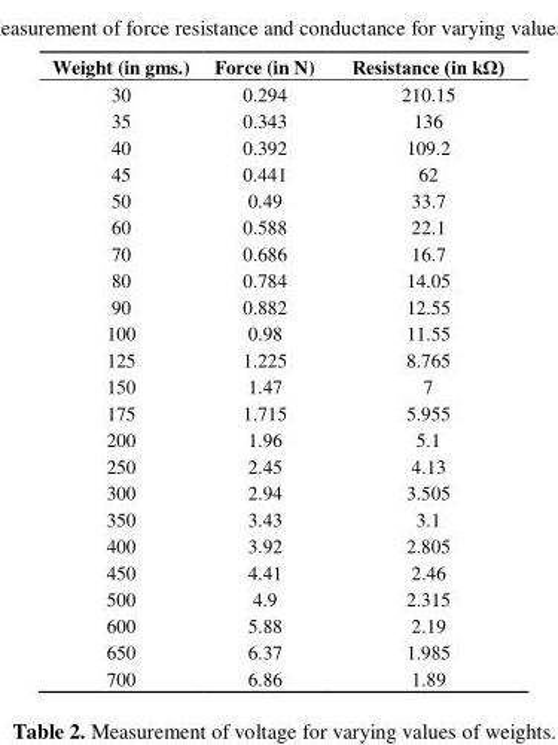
<table><thead><tr><td>Weight (in gms.)</td><td>Force (in N)</td><td>Resistance (in kΩ)</td></tr></thead><tbody><tr><td>30</td><td>0.294</td><td>210.15</td></tr><tr><td>35</td><td>0.343</td><td>136</td></tr><tr><td>40</td><td>0.392</td><td>109.2</td></tr><tr><td>45</td><td>0.441</td><td>62</td></tr><tr><td>50</td><td>0.49</td><td>33.7</td></tr><tr><td>60</td><td>0.588</td><td>22.1</td></tr><tr><td>70</td><td>0.686</td><td>16.7</td></tr><tr><td>80</td><td>0.784</td><td>14.05</td></tr><tr><td>90</td><td>0.882</td><td>12.55</td></tr><tr><td>100</td><td>0.98</td><td>11.55</td></tr><tr><td>125</td><td>1.225</td><td>8.765</td></tr><tr><td>150</td><td>1.47</td><td>7</td></tr><tr><td>175</td><td>1.715</td><td>5.955</td></tr><tr><td>200</td><td>1.96</td><td>5.1</td></tr><tr><td>250</td><td>2.45</td><td>4.13</td></tr><tr><td>300</td><td>2.94</td><td>3.505</td></tr><tr><td>350</td><td>3.43</td><td>3.1</td></tr><tr><td>400</td><td>3.92</td><td>2.805</td></tr><tr><td>450</td><td>4.41</td><td>2.46</td></tr><tr><td>500</td><td>4.9</td><td>2.315</td></tr><tr><td>600</td><td>5.88</td><td>2.19</td></tr><tr><td>650</td><td>6.37</td><td>1.985</td></tr><tr><td>700</td><td>6.86</td><td>1.89</td></tr></tbody></table>